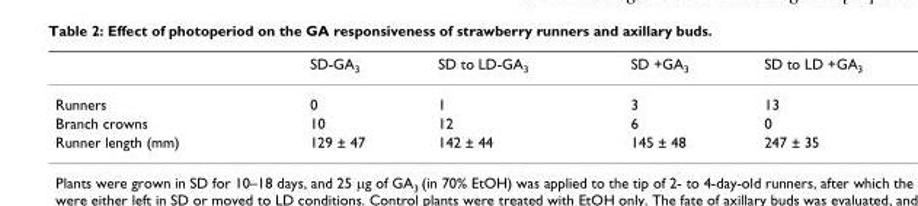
<table><thead><tr><td></td><td>SD-GA<sub>3</sub></td><td>SD to LD-GA<sub>3</sub></td><td>SD +GA<sub>3</sub></td><td>SD to LD +GA<sub>3</sub></td></tr></thead><tbody><tr><td>Runners</td><td>0</td><td>1</td><td>3</td><td>13</td></tr><tr><td>Branch crowns</td><td>10</td><td>12</td><td>6</td><td>0</td></tr><tr><td>Runner length (mm)</td><td>129 ± 47</td><td>142 ± 44</td><td>145 ± 48</td><td>247 ± 35</td></tr></tbody></table>